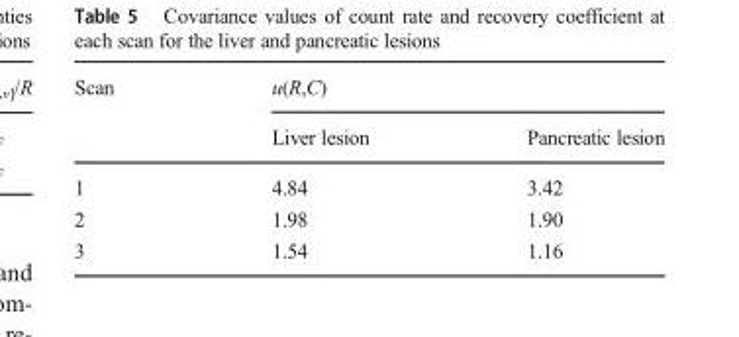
<table><thead><tr><td rowspan="2">Scan</td><td colspan="2">u(R,C)</td></tr><tr><td>Liver lesion</td><td>Pancreatic lesion</td></tr></thead><tbody><tr><td>1</td><td>4.84</td><td>3.42</td></tr><tr><td>2</td><td>1.98</td><td>1.90</td></tr><tr><td>3</td><td>1.54</td><td>1.16</td></tr></tbody></table>